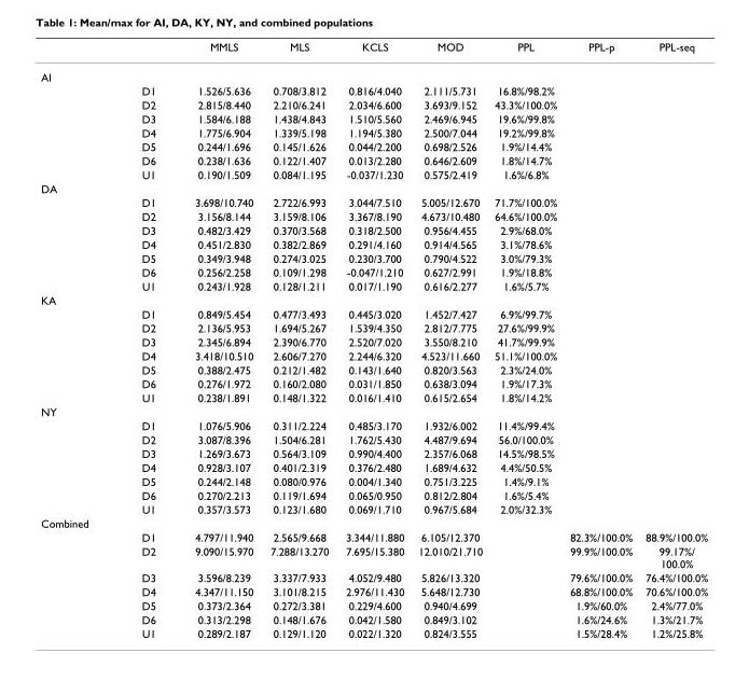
<table><thead><tr><td></td><td></td><td>MMLS</td><td>MLS</td><td>KCLS</td><td>MOD</td><td>PPL</td><td>PPL-p</td><td>PPL-seq</td></tr></thead><tbody><tr><td colspan="9">AI</td></tr><tr><td></td><td>D1</td><td>1.526/5.636</td><td>0.708/3.812</td><td>0.816/4.040</td><td>2.111/5.731</td><td>16.8%/98.2%</td><td></td><td></td></tr><tr><td></td><td>D2</td><td>2.815/8.440</td><td>2.210/6.241</td><td>2.034/6.600</td><td>3.693/9.152</td><td>43.3%/100.0%</td><td></td><td></td></tr><tr><td></td><td>D3</td><td>1.584/6.188</td><td>1.438/4.843</td><td>1.510/5.560</td><td>2.469/6.945</td><td>19.6%/99.8%</td><td></td><td></td></tr><tr><td></td><td>D4</td><td>1.775/6.904</td><td>1.339/5.198</td><td>1.194/5.380</td><td>2.500/7.044</td><td>19.2%/99.8%</td><td></td><td></td></tr><tr><td></td><td>D5</td><td>0.244/1.696</td><td>0.145/1.626</td><td>0.044/2.200</td><td>0.698/2.526</td><td>1.9%/14.4%</td><td></td><td></td></tr><tr><td></td><td>D6</td><td>0.238/1.636</td><td>0.122/1.407</td><td>0.013/2.280</td><td>0.646/2.609</td><td>1.8%/14.7%</td><td></td><td></td></tr><tr><td></td><td>U1</td><td>0.190/1.509</td><td>0.084/1.195</td><td>-0.037/1.230</td><td>0.575/2.419</td><td>1.6%/6.8%</td><td></td><td></td></tr><tr><td colspan="9">DA</td></tr><tr><td></td><td>D1</td><td>3.698/10.740</td><td>2.722/6.993</td><td>3.044/7.510</td><td>5.005/12.670</td><td>71.7%/100.0%</td><td></td><td></td></tr><tr><td></td><td>D2</td><td>3.156/8.144</td><td>3.159/8.106</td><td>3.367/8.190</td><td>4.673/10.480</td><td>64.6%/100.0%</td><td></td><td></td></tr><tr><td></td><td>D3</td><td>0.482/3.429</td><td>0.370/3.568</td><td>0.318/2.500</td><td>0.956/4.455</td><td>2.9%/68.0%</td><td></td><td></td></tr><tr><td></td><td>D4</td><td>0.451/2.830</td><td>0.382/2.869</td><td>0.291/4.160</td><td>0.914/4.565</td><td>3.1%/78.6%</td><td></td><td></td></tr><tr><td></td><td>D5</td><td>0.349/3.948</td><td>0.274/3.025</td><td>0.230/3.700</td><td>0.790/4.522</td><td>3.0%/79.3%</td><td></td><td></td></tr><tr><td></td><td>D6</td><td>0.256/2.258</td><td>0.109/1.298</td><td>-0.047/1.210</td><td>0.627/2.991</td><td>1.9%/18.8%</td><td></td><td></td></tr><tr><td></td><td>U1</td><td>0.243/1.928</td><td>0.128/1.211</td><td>0.017/1.190</td><td>0.616/2.277</td><td>1.6%/5.7%</td><td></td><td></td></tr><tr><td colspan="9">KA</td></tr><tr><td></td><td>D1</td><td>0.849/5.454</td><td>0.477/3.493</td><td>0.445/3.020</td><td>1.452/7.427</td><td>6.9%/99.7%</td><td></td><td></td></tr><tr><td></td><td>D2</td><td>2.136/5.953</td><td>1.694/5.267</td><td>1.539/4.350</td><td>2.812/7.775</td><td>27.6%/99.9%</td><td></td><td></td></tr><tr><td></td><td>D3</td><td>2.345/6.894</td><td>2.390/6.770</td><td>2.520/7.020</td><td>3.550/8.210</td><td>41.7%/99.9%</td><td></td><td></td></tr><tr><td></td><td>D4</td><td>3.418/10.510</td><td>2.606/7.270</td><td>2.244/6.320</td><td>4.523/11.660</td><td>51.1%/100.0%</td><td></td><td></td></tr><tr><td></td><td>D5</td><td>0.388/2.475</td><td>0.212/1.482</td><td>0.143/1.640</td><td>0.820/3.563</td><td>2.3%/24.0%</td><td></td><td></td></tr><tr><td></td><td>D6</td><td>0.276/1.972</td><td>0.160/2.080</td><td>0.031/1.850</td><td>0.638/3.094</td><td>1.9%/17.3%</td><td></td><td></td></tr><tr><td></td><td>U1</td><td>0.238/1.891</td><td>0.148/1.322</td><td>0.016/1.410</td><td>0.615/2.654</td><td>1.8%/14.2%</td><td></td><td></td></tr><tr><td colspan="9">NY</td></tr><tr><td></td><td>D1</td><td>1.076/5.906</td><td>0.311/2.224</td><td>0.485/3.170</td><td>1.932/6.002</td><td>11.4%/99.4%</td><td></td><td></td></tr><tr><td></td><td>D2</td><td>3.087/8.396</td><td>1.504/6.281</td><td>1.762/5.430</td><td>4.487/9.694</td><td>56.0/100.0%</td><td></td><td></td></tr><tr><td></td><td>D3</td><td>1.269/3.673</td><td>0.564/3.109</td><td>0.990/4.400</td><td>2.357/6.068</td><td>14.5%/98.5%</td><td></td><td></td></tr><tr><td></td><td>D4</td><td>0.928/3.107</td><td>0.401/2.319</td><td>0.376/2.480</td><td>1.689/4.632</td><td>4.4%/50.5%</td><td></td><td></td></tr><tr><td></td><td>D5</td><td>0.244/2.148</td><td>0.080/0.976</td><td>0.004/1.340</td><td>0.751/3.225</td><td>1.4%/9.1%</td><td></td><td></td></tr><tr><td></td><td>D6</td><td>0.270/2.213</td><td>0.119/1.694</td><td>0.065/0.950</td><td>0.812/2.804</td><td>1.6%/5.4%</td><td></td><td></td></tr><tr><td></td><td>U1</td><td>0.357/3.573</td><td>0.123/1.680</td><td>0.069/1.710</td><td>0.967/5.684</td><td>2.0%/32.3%</td><td></td><td></td></tr><tr><td colspan="9">Combined</td></tr><tr><td></td><td>D1</td><td>4.797/11.940</td><td>2.565/9.668</td><td>3.344/11.880</td><td>6.105/12.370</td><td></td><td>82.3%/100.0%</td><td>88.9%/100.0%</td></tr><tr><td></td><td>D2</td><td>9.090/15.970</td><td>7.288/13.270</td><td>7.695/15.380</td><td>12.010/21.710</td><td></td><td>99.9%/100.0%</td><td>99.17%/ 100.0%</td></tr><tr><td></td><td>D3</td><td>3.596/8.239</td><td>3.337/7.933</td><td>4.052/9.480</td><td>5.826/13.320</td><td></td><td>79.6%/100.0%</td><td>76.4%/100.0%</td></tr><tr><td></td><td>D4</td><td>4.347/11.150</td><td>3.101/8.215</td><td>2.976/11.430</td><td>5.648/12.730</td><td></td><td>68.8%/100.0%</td><td>70.6%/100.0%</td></tr><tr><td></td><td>D5</td><td>0.373/2.364</td><td>0.272/3.381</td><td>0.229/4.600</td><td>0.940/4.699</td><td></td><td>1.9%/60.0%</td><td>2.4%/77.0%</td></tr><tr><td></td><td>D6</td><td>0.313/2.298</td><td>0.148/1.676</td><td>0.042/1.580</td><td>0.849/3.102</td><td></td><td>1.6%/24.6%</td><td>1.3%/21.7%</td></tr><tr><td></td><td>U1</td><td>0.289/2.187</td><td>0.129/1.120</td><td>0.022/1.320</td><td>0.824/3.555</td><td></td><td>1.5%/28.4%</td><td>1.2%/25.8%</td></tr></tbody></table>